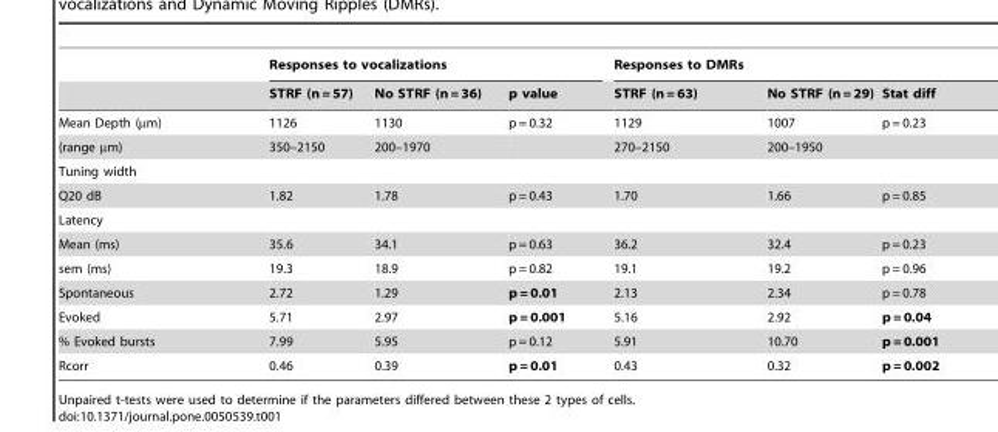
<table><thead><tr><td rowspan="2"></td><td colspan="3">Responses to vocalizations</td><td colspan="3">Responses to DMRs</td></tr><tr><td>STRF (n = 57)</td><td>No STRF (n = 36)</td><td>p value</td><td>STRF (n = 63)</td><td>No STRF (n = 29)</td><td>Stat diff</td></tr></thead><tbody><tr><td>Mean Depth (µm)</td><td>1126</td><td>1130</td><td>p = 0.32</td><td>1129</td><td>1007</td><td>p = 0.23</td></tr><tr><td>(range µm)</td><td>350–2150</td><td>200–1970</td><td></td><td>270–2150</td><td>200–1950</td><td></td></tr><tr><td colspan="7">Tuning width</td></tr><tr><td>Q20 dB</td><td>1.82</td><td>1.78</td><td>p = 0.43</td><td>1.70</td><td>1.66</td><td>p = 0.85</td></tr><tr><td colspan="7">Latency</td></tr><tr><td>Mean (ms)</td><td>35.6</td><td>34.1</td><td>p = 0.63</td><td>36.2</td><td>32.4</td><td>p = 0.23</td></tr><tr><td>sem (ms)</td><td>19.3</td><td>18.9</td><td>p = 0.82</td><td>19.1</td><td>19.2</td><td>p = 0.96</td></tr><tr><td>Spontaneous</td><td>2.72</td><td>1.29</td><td>p = 0.01</td><td>2.13</td><td>2.34</td><td>p = 0.78</td></tr><tr><td>Evoked</td><td>5.71</td><td>2.97</td><td>p = 0.001</td><td>5.16</td><td>2.92</td><td>p = 0.04</td></tr><tr><td>% Evoked bursts</td><td>7.99</td><td>5.95</td><td>p = 0.12</td><td>5.91</td><td>10.70</td><td>p = 0.001</td></tr><tr><td>Rcorr</td><td>0.46</td><td>0.39</td><td>p = 0.01</td><td>0.43</td><td>0.32</td><td>p = 0.002</td></tr></tbody></table>